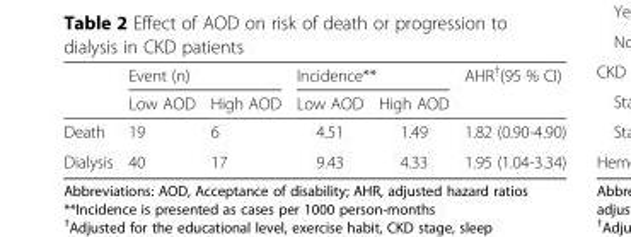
<table><thead><tr><td rowspan="2"></td><td colspan="2">Event (n)</td><td colspan="2">Incidence**</td><td rowspan="2">AHR<sup>†</sup>(95 % CI)</td></tr><tr><td>Low AOD</td><td>High AOD</td><td>Low AOD</td><td>High AOD</td></tr></thead><tbody><tr><td>Death</td><td>19</td><td>6</td><td>4.51</td><td>1.49</td><td>1.82 (0.90-4.90)</td></tr><tr><td>Dialysis</td><td>40</td><td>17</td><td>9.43</td><td>4.33</td><td>1.95 (1.04-3.34)</td></tr></tbody></table>